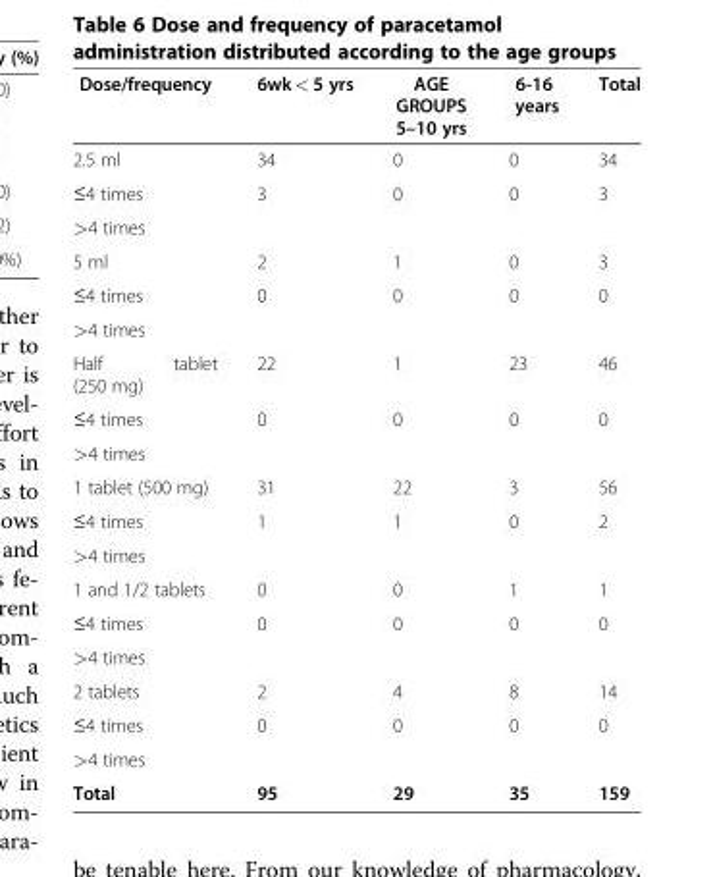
<table><thead><tr><td>Dose/frequency</td><td>6wk &lt; 5 yrs</td><td>AGE GROUPS 5–10 yrs</td><td>6-16 years</td><td>Total</td></tr></thead><tbody><tr><td>2.5 ml</td><td>34</td><td>0</td><td>0</td><td>34</td></tr><tr><td>≤4 times</td><td>3</td><td>0</td><td>0</td><td>3</td></tr><tr><td colspan="5">&gt;4 times</td></tr><tr><td>5 ml</td><td>2</td><td>1</td><td>0</td><td>3</td></tr><tr><td>≤4 times</td><td>0</td><td>0</td><td>0</td><td>0</td></tr><tr><td colspan="5">&gt;4 times</td></tr><tr><td>Half tablet (250 mg)</td><td>22</td><td>1</td><td>23</td><td>46</td></tr><tr><td>≤4 times</td><td>0</td><td>0</td><td>0</td><td>0</td></tr><tr><td colspan="5">&gt;4 times</td></tr><tr><td>1 tablet (500 mg)</td><td>31</td><td>22</td><td>3</td><td>56</td></tr><tr><td>≤4 times</td><td>1</td><td>1</td><td>0</td><td>2</td></tr><tr><td colspan="5">&gt;4 times</td></tr><tr><td>1 and 1/2 tablets</td><td>0</td><td>0</td><td>1</td><td>1</td></tr><tr><td>≤4 times</td><td>0</td><td>0</td><td>0</td><td>0</td></tr><tr><td colspan="5">&gt;4 times</td></tr><tr><td>2 tablets</td><td>2</td><td>4</td><td>8</td><td>14</td></tr><tr><td>≤4 times</td><td>0</td><td>0</td><td>0</td><td>0</td></tr><tr><td colspan="5">&gt;4 times</td></tr><tr><td>Total</td><td>95</td><td>29</td><td>35</td><td>159</td></tr></tbody></table>